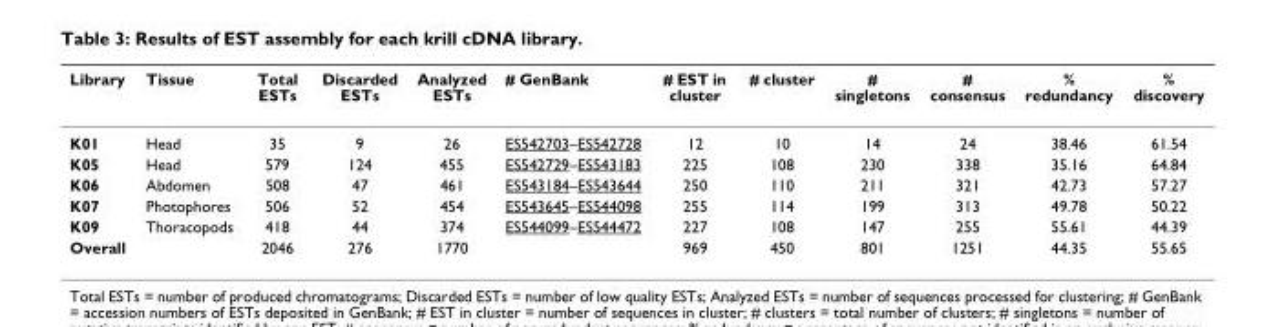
<table><thead><tr><td>Library</td><td>Tissue</td><td>Total ESTs</td><td>Discarded ESTs</td><td>Analyzed ESTs</td><td># GenBank</td><td># EST in cluster</td><td># cluster</td><td># singletons</td><td># consensus</td><td>% redundancy</td><td>% discovery</td></tr></thead><tbody><tr><td>K01</td><td>Head</td><td>35</td><td>9</td><td>26</td><td>ES542703–ES542728</td><td>12</td><td>10</td><td>14</td><td>24</td><td>38.46</td><td>61.54</td></tr><tr><td>K05</td><td>Head</td><td>579</td><td>124</td><td>455</td><td>ES542729–ES543183</td><td>225</td><td>108</td><td>230</td><td>338</td><td>35.16</td><td>64.84</td></tr><tr><td>K06</td><td>Abdomen</td><td>508</td><td>47</td><td>461</td><td>ES543184–ES543644</td><td>250</td><td>110</td><td>211</td><td>321</td><td>42.73</td><td>57.27</td></tr><tr><td>K07</td><td>Photophores</td><td>506</td><td>52</td><td>454</td><td>ES543645–ES544098</td><td>255</td><td>114</td><td>199</td><td>313</td><td>49.78</td><td>50.22</td></tr><tr><td>K09</td><td>Thoracopods</td><td>418</td><td>44</td><td>374</td><td>ES544099–ES544472</td><td>227</td><td>108</td><td>147</td><td>255</td><td>55.61</td><td>44.39</td></tr><tr><td>Overall</td><td></td><td>2046</td><td>276</td><td>1770</td><td></td><td>969</td><td>450</td><td>801</td><td>1251</td><td>44.35</td><td>55.65</td></tr></tbody></table>